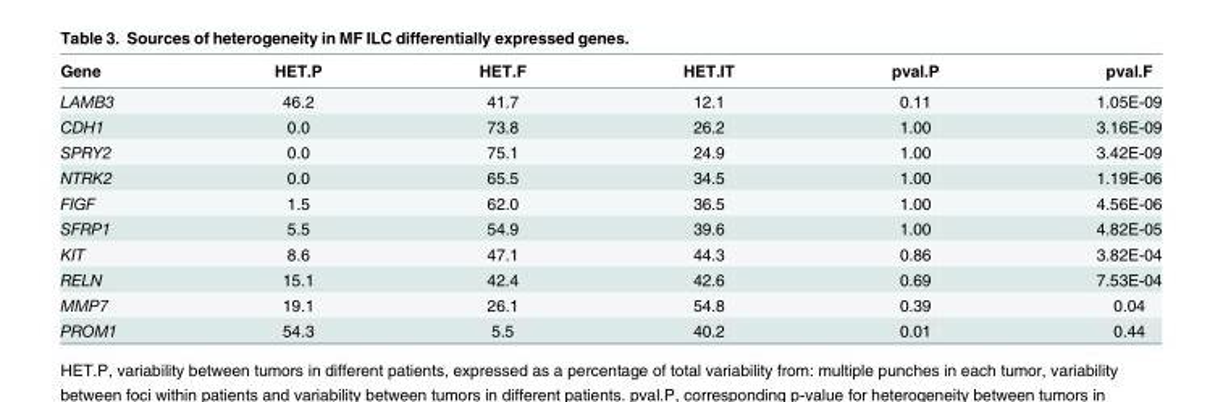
<table><thead><tr><td>Gene</td><td>HET.P</td><td>HET.F</td><td>HET.IT</td><td>pval.P</td><td>pval.F</td></tr></thead><tbody><tr><td>LAMB3</td><td>46.2</td><td>41.7</td><td>12.1</td><td>0.11</td><td>1.05E-09</td></tr><tr><td>CDH1</td><td>0.0</td><td>73.8</td><td>26.2</td><td>1.00</td><td>3.16E-09</td></tr><tr><td>SPRY2</td><td>0.0</td><td>75.1</td><td>24.9</td><td>1.00</td><td>3.42E-09</td></tr><tr><td>NTRK2</td><td>0.0</td><td>65.5</td><td>34.5</td><td>1.00</td><td>1.19E-06</td></tr><tr><td>FIGF</td><td>1.5</td><td>62.0</td><td>36.5</td><td>1.00</td><td>4.56E-06</td></tr><tr><td>SFRP1</td><td>5.5</td><td>54.9</td><td>39.6</td><td>1.00</td><td>4.82E-05</td></tr><tr><td>KIT</td><td>8.6</td><td>47.1</td><td>44.3</td><td>0.86</td><td>3.82E-04</td></tr><tr><td>RELN</td><td>15.1</td><td>42.4</td><td>42.6</td><td>0.69</td><td>7.53E-04</td></tr><tr><td>MMP7</td><td>19.1</td><td>26.1</td><td>54.8</td><td>0.39</td><td>0.04</td></tr><tr><td>PROM1</td><td>54.3</td><td>5.5</td><td>40.2</td><td>0.01</td><td>0.44</td></tr></tbody></table>